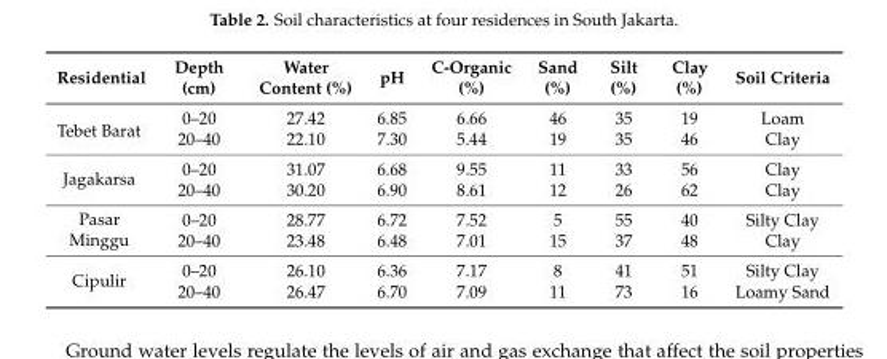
<table><thead><tr><td>Residential</td><td>Depth (cm)</td><td>Water Content (%)</td><td>pH</td><td>C-Organic (%)</td><td>Sand (%)</td><td>Silt (%)</td><td>Clay (%)</td><td>Soil Criteria</td></tr></thead><tbody><tr><td rowspan="2">Tebet Barat</td><td>0–20</td><td>27.42</td><td>6.85</td><td>6.66</td><td>46</td><td>35</td><td>19</td><td>Loam</td></tr><tr><td>20–40</td><td>22.10</td><td>7.30</td><td>5.44</td><td>19</td><td>35</td><td>46</td><td>Clay</td></tr><tr><td rowspan="2">Jagakarsa</td><td>0–20</td><td>31.07</td><td>6.68</td><td>9.55</td><td>11</td><td>33</td><td>56</td><td>Clay</td></tr><tr><td>20–40</td><td>30.20</td><td>6.90</td><td>8.61</td><td>12</td><td>26</td><td>62</td><td>Clay</td></tr><tr><td rowspan="2">Pasar Minggu</td><td>0–20</td><td>28.77</td><td>6.72</td><td>7.52</td><td>5</td><td>55</td><td>40</td><td>Silty Clay</td></tr><tr><td>20–40</td><td>23.48</td><td>6.48</td><td>7.01</td><td>15</td><td>37</td><td>48</td><td>Clay</td></tr><tr><td rowspan="2">Cipulir</td><td>0–20</td><td>26.10</td><td>6.36</td><td>7.17</td><td>8</td><td>41</td><td>51</td><td>Silty Clay</td></tr><tr><td>20–40</td><td>26.47</td><td>6.70</td><td>7.09</td><td>11</td><td>73</td><td>16</td><td>Loamy Sand</td></tr></tbody></table>